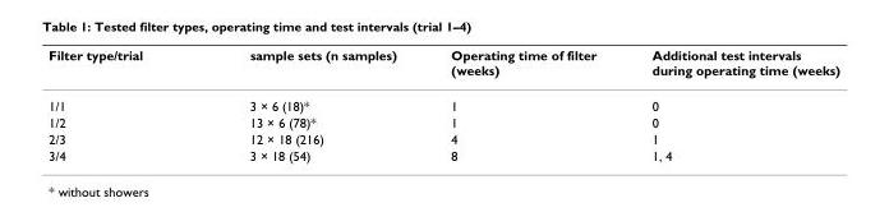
<table><thead><tr><td>Filter type/trial</td><td>sample sets (n samples)</td><td>Operating time of filter (weeks)</td><td>Additional test intervals during operating time (weeks)</td></tr></thead><tbody><tr><td>1/1</td><td>3 × 6 (18)*</td><td>1</td><td>0</td></tr><tr><td>1/2</td><td>13 × 6 (78)*</td><td>1</td><td>0</td></tr><tr><td>2/3</td><td>12 × 18 (216)</td><td>4</td><td>1</td></tr><tr><td>3/4</td><td>3 × 18 (54)</td><td>8</td><td>1, 4</td></tr></tbody></table>